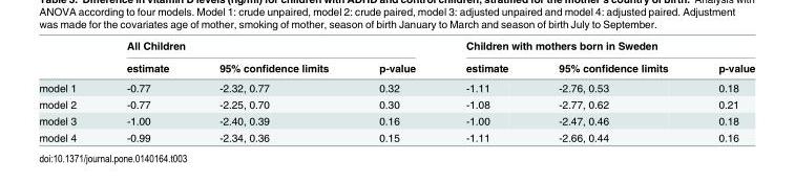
<table><thead><tr><td rowspan="2"></td><td colspan="3">All Children</td><td colspan="3">Children with mothers born in Sweden</td></tr><tr><td>estimate</td><td>95% confidence limits</td><td>p-value</td><td>estimate</td><td>95% confidence limits</td><td>p-value</td></tr></thead><tbody><tr><td>model 1</td><td>-0.77</td><td>-2.32, 0.77</td><td>0.32</td><td>-1.11</td><td>-2.76, 0.53</td><td>0.18</td></tr><tr><td>model 2</td><td>-0.77</td><td>-2.25, 0.70</td><td>0.30</td><td>-1.08</td><td>-2.77, 0.62</td><td>0.21</td></tr><tr><td>model 3</td><td>-1.00</td><td>-2.40, 0.39</td><td>0.16</td><td>-1.00</td><td>-2.47, 0.46</td><td>0.18</td></tr><tr><td>model 4</td><td>-0.99</td><td>-2.34, 0.36</td><td>0.15</td><td>-1.11</td><td>-2.66, 0.44</td><td>0.16</td></tr></tbody></table>